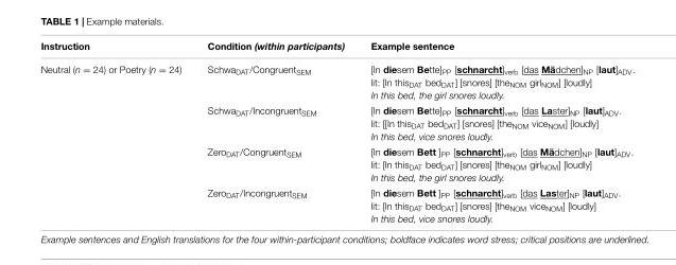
<table><thead><tr><td>Instruction</td><td>Condition (within participants)</td><td>Example sentence</td></tr></thead><tbody><tr><td rowspan="4">Neutral (n = 24) or Poetry (n = 24)</td><td>Schwa<sub>DAT</sub>/Congruent<sub>SEM</sub></td><td>[In diesem Bette]<sub>PP</sub> [schnarcht]<sub>verb</sub> [das Mädchen]<sub>NP</sub> [laut]<sub>ADV</sub>. lit: [In this<sub>DAT</sub> bed<sub>DAT</sub>] [snores] [the<sub>NOM</sub> girl<sub>NOM</sub>] [loudly] In this bed, the girl snores loudly.</td></tr><tr><td>Schwa<sub>DAT</sub>/Incongruent<sub>SEM</sub></td><td>[In diesem Bette]<sub>PP</sub> [schnarcht]<sub>verb</sub> [das Laster]<sub>NP</sub> [laut]<sub>ADV</sub>. lit: [[In this<sub>DAT</sub> bed<sub>DAT</sub>] [snores] [the<sub>NOM</sub> vice<sub>NOM</sub>] [loudly] In this bed, vice snores loudly.</td></tr><tr><td>Zero<sub>DAT</sub>/Congruent<sub>SEM</sub></td><td>[In diesem Bett ]<sub>PP</sub> [schnarcht]<sub>verb</sub> [das Mädchen]<sub>NP</sub> [laut]<sub>ADV</sub>. lit: [In this<sub>DAT</sub> bed<sub>DAT</sub>] [snores] [the<sub>NOM</sub> girl<sub>NOM</sub>] [loudly] In this bed, the girl snores loudly.</td></tr><tr><td>Zero<sub>DAT</sub>/Incongruent<sub>SEM</sub></td><td>[In diesem Bett ]<sub>PP</sub> [schnarcht]<sub>verb</sub> [das Laster]<sub>NP</sub> [laut]<sub>ADV</sub>. lit: [In this<sub>DAT</sub> bed<sub>DAT</sub>] [snores] [the<sub>NOM</sub> vice<sub>NOM</sub>] [loudly] In this bed, vice snores loudly.</td></tr></tbody></table>